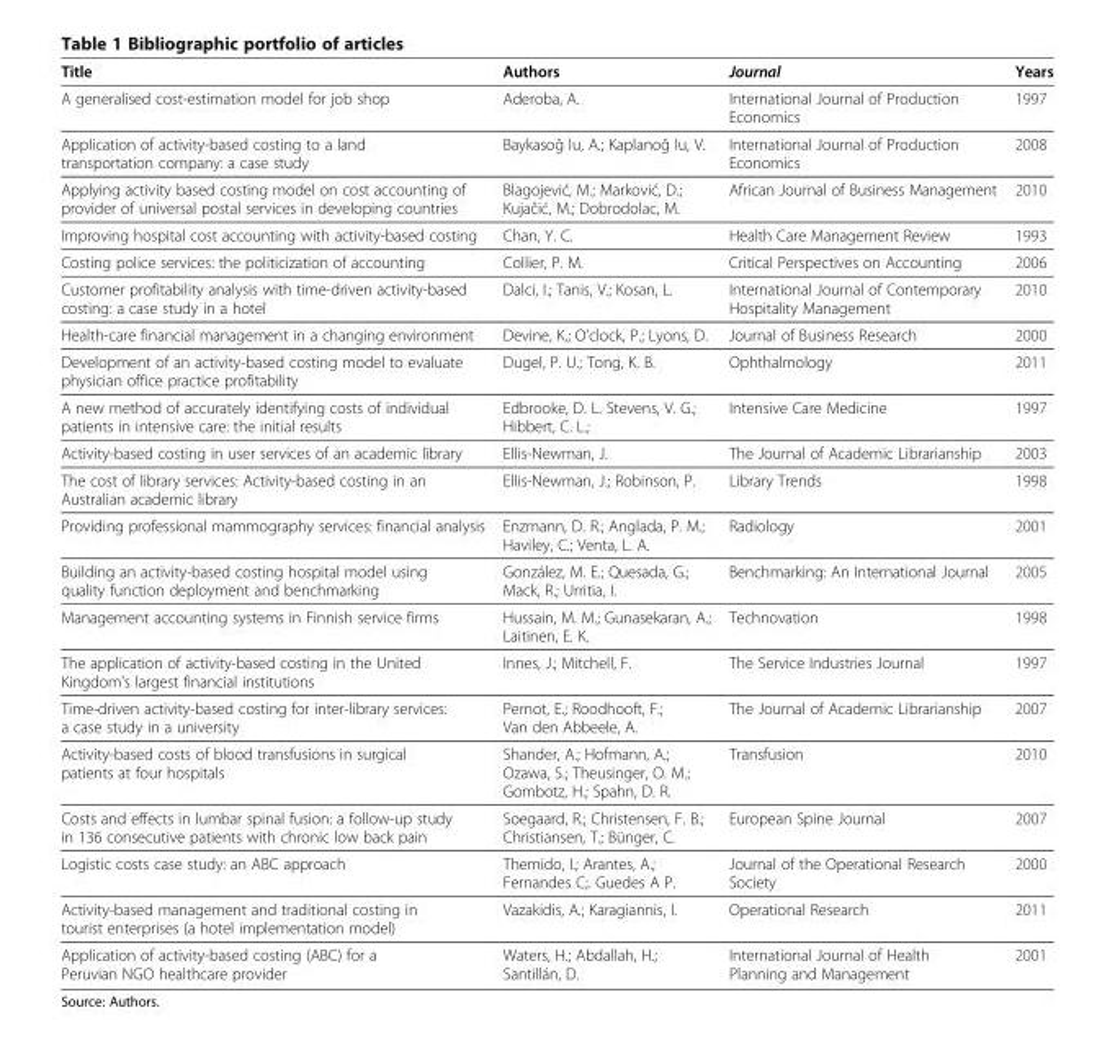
<table><thead><tr><td>Title</td><td>Authors</td><td>Journal</td><td>Years</td></tr></thead><tbody><tr><td>A generalised cost-estimation model for job shop</td><td>Aderoba, A.</td><td>International Journal of Production Economics</td><td>1997</td></tr><tr><td>Application of activity-based costing to a land transportation company: a case study</td><td>Baykasoǧ lu, A.; Kaplanoǧ lu, V.</td><td>International Journal of Production Economics</td><td>2008</td></tr><tr><td>Applying activity based costing model on cost accounting of provider of universal postal services in developing countries</td><td>Blagojević, M.; Marković, D.; Kujačić, M.; Dobrodolac, M.</td><td>African Journal of Business Management</td><td>2010</td></tr><tr><td>Improving hospital cost accounting with activity-based costing</td><td>Chan, Y. C.</td><td>Health Care Management Review</td><td>1993</td></tr><tr><td>Costing police services: the politicization of accounting</td><td>Collier, P. M.</td><td>Critical Perspectives on Accounting</td><td>2006</td></tr><tr><td>Customer profitability analysis with time-driven activity-based costing: a case study in a hotel</td><td>Dalci, I.; Tanis, V.; Kosan, L.</td><td>International Journal of Contemporary Hospitality Management</td><td>2010</td></tr><tr><td>Health-care financial management in a changing environment</td><td>Devine, K.; O&#x27;clock, P.; Lyons, D.</td><td>Journal of Business Research</td><td>2000</td></tr><tr><td>Development of an activity-based costing model to evaluate physician office practice profitability</td><td>Dugel, P. U.; Tong, K. B.</td><td>Ophthalmology</td><td>2011</td></tr><tr><td>A new method of accurately identifying costs of individual patients in intensive care: the initial results</td><td>Edbrooke, D. L. Stevens, V. G.; Hibbert, C. L.;</td><td>Intensive Care Medicine</td><td>1997</td></tr><tr><td>Activity-based costing in user services of an academic library</td><td>Ellis-Newman, J.</td><td>The Journal of Academic Librarianship</td><td>2003</td></tr><tr><td>The cost of library services: Activity-based costing in an Australian academic library</td><td>Ellis-Newman, J.; Robinson, P.</td><td>Library Trends</td><td>1998</td></tr><tr><td>Providing professional mammography services: financial analysis</td><td>Enzmann, D. R.; Anglada, P. M.; Haviley, C.; Venta, L. A.</td><td>Radiology</td><td>2001</td></tr><tr><td>Building an activity-based costing hospital model using quality function deployment and benchmarking</td><td>González, M. E.; Quesada, G.; Mack, R.; Urritia, I.</td><td>Benchmarking: An International Journal</td><td>2005</td></tr><tr><td>Management accounting systems in Finnish service firms</td><td>Hussain, M. M.; Gunasekaran, A.; Laitinen, E. K.</td><td>Technovation</td><td>1998</td></tr><tr><td>The application of activity-based costing in the United Kingdom&#x27;s largest financial institutions</td><td>Innes, J.; Mitchell, F.</td><td>The Service Industries Journal</td><td>1997</td></tr><tr><td>Time-driven activity-based costing for inter-library services: a case study in a university</td><td>Pernot, E.; Roodhooft, F.; Van den Abbeele, A.</td><td>The Journal of Academic Librarianship</td><td>2007</td></tr><tr><td>Activity-based costs of blood transfusions in surgical patients at four hospitals</td><td>Shander, A.; Hofmann, A.; Ozawa, S.; Theusinger, O. M.; Gombotz, H.; Spahn, D. R.</td><td>Transfusion</td><td>2010</td></tr><tr><td>Costs and effects in lumbar spinal fusion: a follow-up study in 136 consecutive patients with chronic low back pain</td><td>Soegaard, R.; Christensen, F. B.; Christiansen, T.; Bünger, C.</td><td>European Spine Journal</td><td>2007</td></tr><tr><td>Logistic costs case study: an ABC approach</td><td>Themido, I.; Arantes, A.; Fernandes C;. Guedes A P.</td><td>Journal of the Operational Research Society</td><td>2000</td></tr><tr><td>Activity-based management and traditional costing in tourist enterprises (a hotel implementation model)</td><td>Vazakidis, A.; Karagiannis, I.</td><td>Operational Research</td><td>2011</td></tr><tr><td>Application of activity-based costing (ABC) for a Peruvian NGO healthcare provider</td><td>Waters, H.; Abdallah, H.; Santillán, D.</td><td>International Journal of Health Planning and Management</td><td>2001</td></tr></tbody></table>